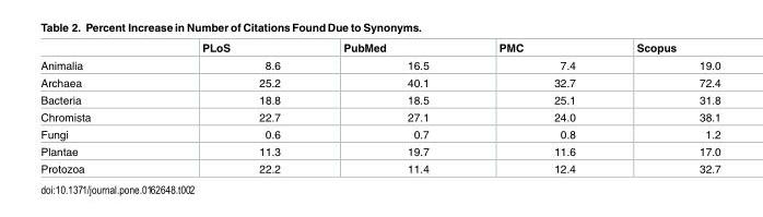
<table><thead><tr><td></td><td>PLoS</td><td>PubMed</td><td>PMC</td><td>Scopus</td></tr></thead><tbody><tr><td>Animalia</td><td>8.6</td><td>16.5</td><td>7.4</td><td>19.0</td></tr><tr><td>Archaea</td><td>25.2</td><td>40.1</td><td>32.7</td><td>72.4</td></tr><tr><td>Bacteria</td><td>18.8</td><td>18.5</td><td>25.1</td><td>31.8</td></tr><tr><td>Chromista</td><td>22.7</td><td>27.1</td><td>24.0</td><td>38.1</td></tr><tr><td>Fungi</td><td>0.6</td><td>0.7</td><td>0.8</td><td>1.2</td></tr><tr><td>Plantae</td><td>11.3</td><td>19.7</td><td>11.6</td><td>17.0</td></tr><tr><td>Protozoa</td><td>22.2</td><td>11.4</td><td>12.4</td><td>32.7</td></tr></tbody></table>